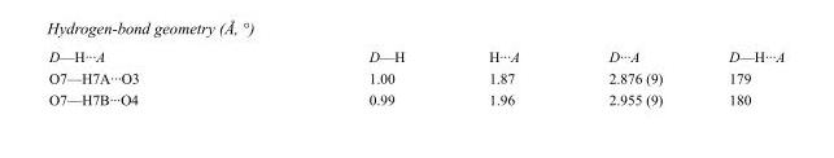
<table><tbody><tr><td>D—H···A</td><td>D—H</td><td>H···A</td><td>D···A</td><td>D—H···A</td></tr><tr><td>O7—H7A···O3</td><td>1.00</td><td>1.87</td><td>2.876 (9)</td><td>179</td></tr><tr><td>O7—H7B···O4</td><td>0.99</td><td>1.96</td><td>2.955 (9)</td><td>180</td></tr></tbody></table>